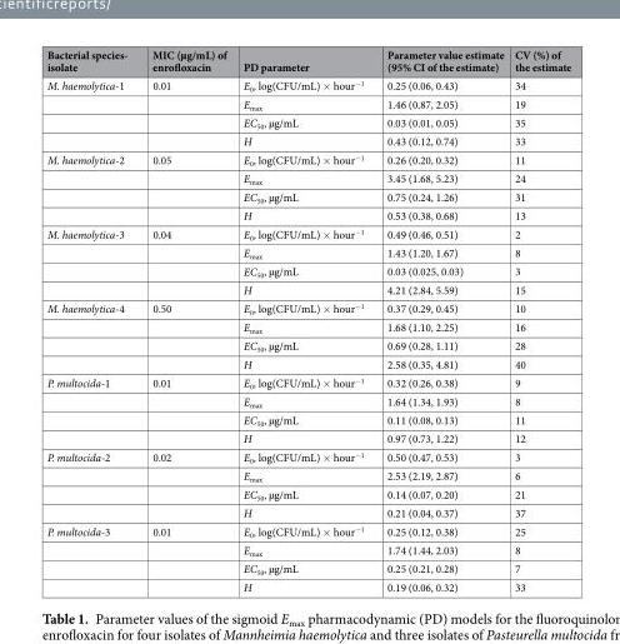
<table><thead><tr><td>Bacterial species- isolate</td><td>MIC (µg/mL) of enrofloxacin</td><td>PD parameter</td><td>Parameter value estimate (95% CI of the estimate)</td><td>CV (%) of the estimate</td></tr></thead><tbody><tr><td rowspan="4">M. haemolytica-1</td><td>0.01</td><td>E<sub>0</sub>, log(CFU/mL) × hour<sup>−1</sup></td><td>0.25 (0.06, 0.43)</td><td>34</td></tr><tr><td></td><td>E<sub>max</sub></td><td>1.46 (0.87, 2.05)</td><td>19</td></tr><tr><td></td><td>EC<sub>50</sub>, µg/mL</td><td>0.03 (0.01, 0.05)</td><td>35</td></tr><tr><td></td><td>H</td><td>0.43 (0.12, 0.74)</td><td>33</td></tr><tr><td rowspan="4">M. haemolytica-2</td><td>0.05</td><td>E<sub>0</sub>, log(CFU/mL) × hour<sup>−1</sup></td><td>0.26 (0.20, 0.32)</td><td>11</td></tr><tr><td></td><td>E<sub>max</sub></td><td>3.45 (1.68, 5.23)</td><td>24</td></tr><tr><td></td><td>EC<sub>50</sub>, µg/mL</td><td>0.75 (0.24, 1.26)</td><td>31</td></tr><tr><td></td><td>H</td><td>0.53 (0.38, 0.68)</td><td>13</td></tr><tr><td rowspan="4">M. haemolytica-3</td><td>0.04</td><td>E<sub>0</sub>, log(CFU/mL) × hour<sup>−1</sup></td><td>0.49 (0.46, 0.51)</td><td>2</td></tr><tr><td></td><td>E<sub>max</sub></td><td>1.43 (1.20, 1.67)</td><td>8</td></tr><tr><td></td><td>EC<sub>50</sub>, µg/mL</td><td>0.03 (0.025, 0.03)</td><td>3</td></tr><tr><td></td><td>H</td><td>4.21 (2.84, 5.59)</td><td>15</td></tr><tr><td rowspan="4">M. haemolytica-4</td><td>0.50</td><td>E<sub>0</sub>, log(CFU/mL) × hour<sup>−1</sup></td><td>0.37 (0.29, 0.45)</td><td>10</td></tr><tr><td></td><td>E<sub>max</sub></td><td>1.68 (1.10, 2.25)</td><td>16</td></tr><tr><td></td><td>EC<sub>50</sub>, µg/mL</td><td>0.69 (0.28, 1.11)</td><td>28</td></tr><tr><td></td><td>H</td><td>2.58 (0.35, 4.81)</td><td>40</td></tr><tr><td rowspan="4">P. multocida-1</td><td>0.01</td><td>E<sub>0</sub>, log(CFU/mL) × hour<sup>−1</sup></td><td>0.32 (0.26, 0.38)</td><td>9</td></tr><tr><td></td><td>E<sub>max</sub></td><td>1.64 (1.34, 1.93)</td><td>8</td></tr><tr><td></td><td>EC<sub>50</sub>, µg/mL</td><td>0.11 (0.08, 0.13)</td><td>11</td></tr><tr><td></td><td>H</td><td>0.97 (0.73, 1.22)</td><td>12</td></tr><tr><td rowspan="4">P. multocida-2</td><td>0.02</td><td>E<sub>0</sub>, log(CFU/mL) × hour<sup>−1</sup></td><td>0.50 (0.47, 0.53)</td><td>3</td></tr><tr><td></td><td>E<sub>max</sub></td><td>2.53 (2.19, 2.87)</td><td>6</td></tr><tr><td></td><td>EC<sub>50</sub>, µg/mL</td><td>0.14 (0.07, 0.20)</td><td>21</td></tr><tr><td></td><td>H</td><td>0.21 (0.04, 0.37)</td><td>37</td></tr><tr><td rowspan="4">P. multocida-3</td><td>0.01</td><td>E<sub>0</sub>, log(CFU/mL) × hour<sup>−1</sup></td><td>0.25 (0.12, 0.38)</td><td>25</td></tr><tr><td></td><td>E<sub>max</sub></td><td>1.74 (1.44, 2.03)</td><td>8</td></tr><tr><td></td><td>EC<sub>50</sub>, µg/mL</td><td>0.25 (0.21, 0.28)</td><td>7</td></tr><tr><td></td><td>H</td><td>0.19 (0.06, 0.32)</td><td>33</td></tr></tbody></table>